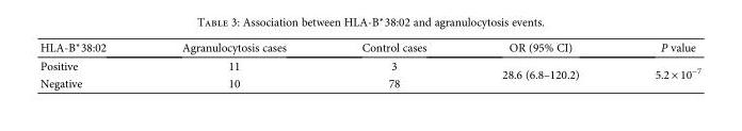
<table><thead><tr><td>HLA-B∗38:02</td><td>Agranulocytosis cases</td><td>Control cases</td><td>OR (95% CI)</td><td>P value</td></tr></thead><tbody><tr><td>Positive</td><td>11</td><td>3</td><td rowspan="2">28.6 (6.8–120.2)</td><td rowspan="2">5.2 × 10<sup>−7</sup></td></tr><tr><td>Negative</td><td>10</td><td>78</td></tr></tbody></table>